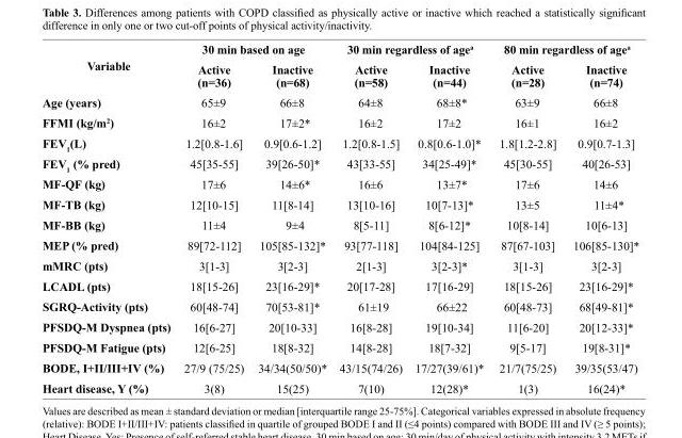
<table><thead><tr><td rowspan="2">Variable</td><td colspan="2">30 min based on age</td><td colspan="2">30 min regardless of agea</td><td colspan="2">80 min regardless of agea</td></tr><tr><td>Active (n=36)</td><td>Inactive (n=68)</td><td>Active (n=58)</td><td>Inactive (n=44)</td><td>Active (n=28)</td><td>Inactive (n=74)</td></tr></thead><tbody><tr><td>Age (years)</td><td>65±9</td><td>66±8</td><td>64±8</td><td>68±8*</td><td>63±9</td><td>66±8</td></tr><tr><td>FFMI (kg/m<sup>2</sup>)</td><td>16±2</td><td>17±2*</td><td>16±2</td><td>17±2</td><td>16±1</td><td>16±2</td></tr><tr><td>FEV<sub>1</sub>(L)</td><td>1.2[0.8-1.6]</td><td>0.9[0.6-1.2]</td><td>1.2[0.8-1.5]</td><td>0.8[0.6-1.0]*</td><td>1.8[1.2-2.8]</td><td>0.9[0.7-1.3]</td></tr><tr><td>FEV<sub>1</sub> (% pred)</td><td>45[35-55]</td><td>39[26-50]*</td><td>43[33-55]</td><td>34[25-49]*</td><td>45[30-55]</td><td>40[26-53]</td></tr><tr><td>MF-QF (kg)</td><td>17±6</td><td>14±6*</td><td>16±6</td><td>13±7*</td><td>17±6</td><td>14±6</td></tr><tr><td>MF-TB (kg)</td><td>12[10-15]</td><td>11[8-14]</td><td>13[10-16]</td><td>10[7-13]*</td><td>13±5</td><td>11±4*</td></tr><tr><td>MF-BB (kg)</td><td>11±4</td><td>9±4</td><td>8[5-11]</td><td>8[6-12]*</td><td>10[8-14]</td><td>10[6-13]</td></tr><tr><td>MEP (% pred)</td><td>89[72-112]</td><td>105[85-132]*</td><td>93[77-118]</td><td>104[84-125]</td><td>87[67-103]</td><td>106[85-130]*</td></tr><tr><td>mMRC (pts)</td><td>3[1-3]</td><td>3[2-3]</td><td>2[1-3]</td><td>3[2-3]*</td><td>3[1-3]</td><td>3[2-3]</td></tr><tr><td>LCADL (pts)</td><td>18[15-26]</td><td>23[16-29]*</td><td>20[17-28]</td><td>17[16-29]</td><td>18[15-26]</td><td>23[16-29]*</td></tr><tr><td>SGRQ-Activity (pts)</td><td>60[48-74]</td><td>70[53-81]*</td><td>61±19</td><td>66±22</td><td>60[48-73]</td><td>68[49-81]*</td></tr><tr><td>PFSDQ-M Dyspnea (pts)</td><td>16[6-27]</td><td>20[10-33]</td><td>16[8-28]</td><td>19[10-34]</td><td>11[6-20]</td><td>20[12-33]*</td></tr><tr><td>PFSDQ-M Fatigue (pts)</td><td>12[6-25]</td><td>18[8-32]</td><td>14[8-28]</td><td>18[7-32]</td><td>9[5-17]</td><td>19[8-31]*</td></tr><tr><td>BODE, I+II/III+IV (%)</td><td>27/9 (75/25)</td><td>34/34(50/50)*</td><td>43/15(74/26)</td><td>17/27(39/61)*</td><td>21/7(75/25)</td><td>39/35(53/47)</td></tr><tr><td>Heart disease, Y (%)</td><td>3(8)</td><td>15(25)</td><td>7(10)</td><td>12(28)*</td><td>1(3)</td><td>16(24)*</td></tr></tbody></table>